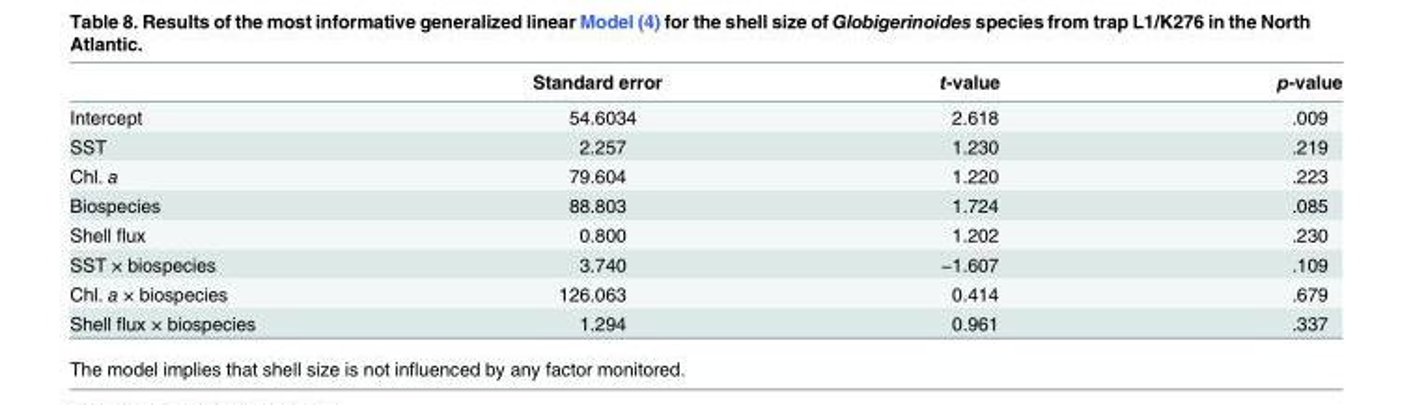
<table><thead><tr><td></td><td>Standard error</td><td>t-value</td><td>p-value</td></tr></thead><tbody><tr><td>Intercept</td><td>54.6034</td><td>2.618</td><td>.009</td></tr><tr><td>SST</td><td>2.257</td><td>1.230</td><td>.219</td></tr><tr><td>Chl. a</td><td>79.604</td><td>1.220</td><td>.223</td></tr><tr><td>Biospecies</td><td>88.803</td><td>1.724</td><td>.085</td></tr><tr><td>Shell flux</td><td>0.800</td><td>1.202</td><td>.230</td></tr><tr><td>SST × biospecies</td><td>3.740</td><td>−1.607</td><td>.109</td></tr><tr><td>Chl. a × biospecies</td><td>126.063</td><td>0.414</td><td>.679</td></tr><tr><td>Shell flux × biospecies</td><td>1.294</td><td>0.961</td><td>.337</td></tr></tbody></table>